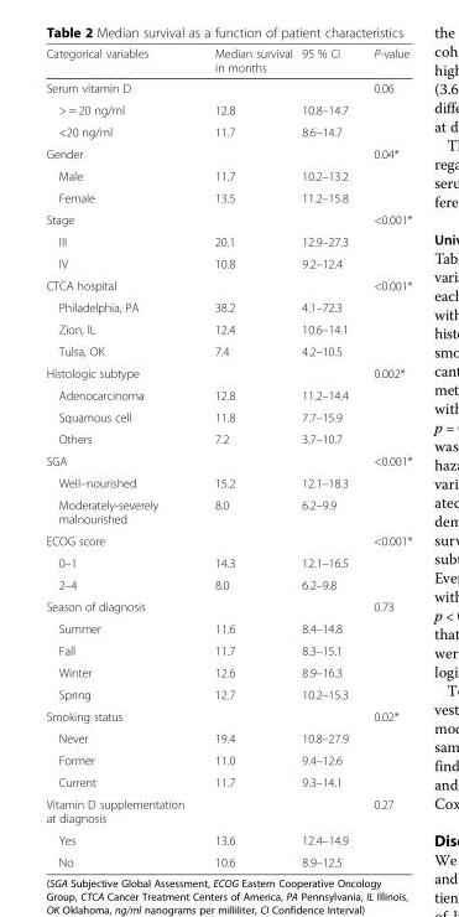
<table><thead><tr><td>Categorical variables</td><td>Median survival in months</td><td>95 % CI</td><td>P-value</td></tr></thead><tbody><tr><td>Serum vitamin D</td><td></td><td></td><td>0.06</td></tr><tr><td>&gt; = 20 ng/ml</td><td>12.8</td><td>10.8–14.7</td><td></td></tr><tr><td>&lt;20 ng/ml</td><td>11.7</td><td>8.6–14.7</td><td></td></tr><tr><td>Gender</td><td></td><td></td><td>0.04*</td></tr><tr><td>Male</td><td>11.7</td><td>10.2–13.2</td><td></td></tr><tr><td>Female</td><td>13.5</td><td>11.2–15.8</td><td></td></tr><tr><td>Stage</td><td></td><td></td><td>&lt;0.001*</td></tr><tr><td>III</td><td>20.1</td><td>12.9–27.3</td><td></td></tr><tr><td>IV</td><td>10.8</td><td>9.2–12.4</td><td></td></tr><tr><td>CTCA hospital</td><td></td><td></td><td>&lt;0.001*</td></tr><tr><td>Philadelphia, PA</td><td>38.2</td><td>4.1–72.3</td><td></td></tr><tr><td>Zion, IL</td><td>12.4</td><td>10.6–14.1</td><td></td></tr><tr><td>Tulsa, OK</td><td>7.4</td><td>4.2–10.5</td><td></td></tr><tr><td>Histologic subtype</td><td></td><td></td><td>0.002*</td></tr><tr><td>Adenocarcinoma</td><td>12.8</td><td>11.2–14.4</td><td></td></tr><tr><td>Squamous cell</td><td>11.8</td><td>7.7–15.9</td><td></td></tr><tr><td>Others</td><td>7.2</td><td>3.7–10.7</td><td></td></tr><tr><td>SGA</td><td></td><td></td><td>&lt;0.001*</td></tr><tr><td>Well–nourished</td><td>15.2</td><td>12.1–18.3</td><td></td></tr><tr><td>Moderately-severely malnourished</td><td>8.0</td><td>6.2–9.9</td><td></td></tr><tr><td>ECOG score</td><td></td><td></td><td>&lt;0.001*</td></tr><tr><td>0–1</td><td>14.3</td><td>12.1–16.5</td><td></td></tr><tr><td>2–4</td><td>8.0</td><td>6.2–9.8</td><td></td></tr><tr><td>Season of diagnosis</td><td></td><td></td><td>0.73</td></tr><tr><td>Summer</td><td>11.6</td><td>8.4–14.8</td><td></td></tr><tr><td>Fall</td><td>11.7</td><td>8.3–15.1</td><td></td></tr><tr><td>Winter</td><td>12.6</td><td>8.9–16.3</td><td></td></tr><tr><td>Spring</td><td>12.7</td><td>10.2–15.3</td><td></td></tr><tr><td>Smoking status</td><td></td><td></td><td>0.02*</td></tr><tr><td>Never</td><td>19.4</td><td>10.8–27.9</td><td></td></tr><tr><td>Former</td><td>11.0</td><td>9.4–12.6</td><td></td></tr><tr><td>Current</td><td>11.7</td><td>9.3–14.1</td><td></td></tr><tr><td>Vitamin D supplementation at diagnosis</td><td></td><td></td><td>0.27</td></tr><tr><td>Yes</td><td>13.6</td><td>12.4–14.9</td><td></td></tr><tr><td>No</td><td>10.6</td><td>8.9–12.5</td><td></td></tr></tbody></table>